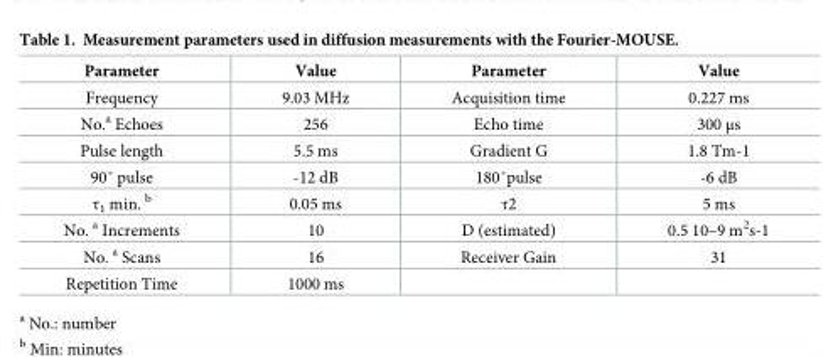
<table><thead><tr><td>Parameter</td><td>Value</td><td>Parameter</td><td>Value</td></tr></thead><tbody><tr><td>Frequency</td><td>9.03 MHz</td><td>Acquisition time</td><td>0.227 ms</td></tr><tr><td>No.<sup>a</sup> Echoes</td><td>256</td><td>Echo time</td><td>300 μs</td></tr><tr><td>Pulse length</td><td>5.5 ms</td><td>Gradient G</td><td>1.8 Tm-1</td></tr><tr><td>90˚ pulse</td><td>-12 dB</td><td>180˚pulse</td><td>-6 dB</td></tr><tr><td>τ<sub>1</sub> min. <sup>b</sup></td><td>0.05 ms</td><td>τ2</td><td>5 ms</td></tr><tr><td>No. <sup>a</sup> Increments</td><td>10</td><td>D (estimated)</td><td>0.5 10–9 m<sup>2</sup>s-1</td></tr><tr><td>No. <sup>a</sup> Scans</td><td>16</td><td>Receiver Gain</td><td>31</td></tr><tr><td>Repetition Time</td><td>1000 ms</td><td></td><td></td></tr></tbody></table>